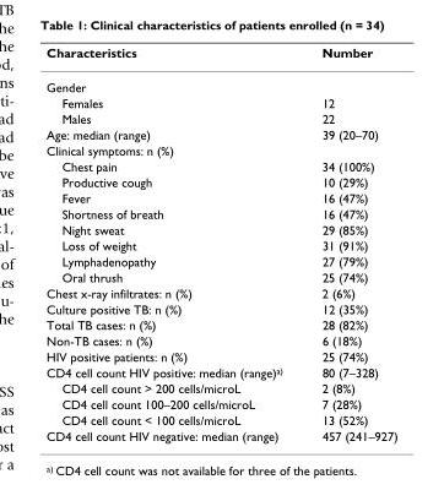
<table><thead><tr><td>Characteristics</td><td>Number</td></tr></thead><tbody><tr><td colspan="2">Gender</td></tr><tr><td>Females</td><td>12</td></tr><tr><td>Males</td><td>22</td></tr><tr><td>Age: median (range)</td><td>39 (20–70)</td></tr><tr><td colspan="2">Clinical symptoms: n (%)</td></tr><tr><td>Chest pain</td><td>34 (100%)</td></tr><tr><td>Productive cough</td><td>10 (29%)</td></tr><tr><td>Fever</td><td>16 (47%)</td></tr><tr><td>Shortness of breath</td><td>16 (47%)</td></tr><tr><td>Night sweat</td><td>29 (85%)</td></tr><tr><td>Loss of weight</td><td>31 (91%)</td></tr><tr><td>Lymphadenopathy</td><td>27 (79%)</td></tr><tr><td>Oral thrush</td><td>25 (74%)</td></tr><tr><td>Chest x-ray infiltrates: n (%)</td><td>2 (6%)</td></tr><tr><td>Culture positive TB: n (%)</td><td>12 (35%)</td></tr><tr><td>Total TB cases: n (%)</td><td>28 (82%)</td></tr><tr><td>Non-TB cases: n (%)</td><td>6 (18%)</td></tr><tr><td>HIV positive patients: n (%)</td><td>25 (74%)</td></tr><tr><td>CD4 cell count HIV positive: median (range)<sup>a)</sup></td><td>80 (7–328)</td></tr><tr><td>CD4 cell count &gt; 200 cells/microL</td><td>2 (8%)</td></tr><tr><td>CD4 cell count 100–200 cells/microL</td><td>7 (28%)</td></tr><tr><td>CD4 cell count &lt; 100 cells/microL</td><td>13 (52%)</td></tr><tr><td>CD4 cell count HIV negative: median (range)</td><td>457 (241–927)</td></tr></tbody></table>